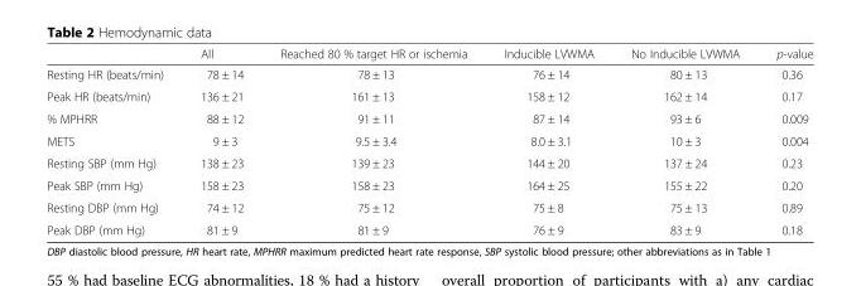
<table><thead><tr><td></td><td>All</td><td>Reached 80 % target HR or ischemia</td><td>Inducible LVWMA</td><td>No Inducible LVWMA</td><td>p-value</td></tr></thead><tbody><tr><td>Resting HR (beats/min)</td><td>78 ± 14</td><td>78 ± 13</td><td>76 ± 14</td><td>80 ± 13</td><td>0.36</td></tr><tr><td>Peak HR (beats/min)</td><td>136 ± 21</td><td>161 ± 13</td><td>158 ± 12</td><td>162 ± 14</td><td>0.17</td></tr><tr><td>% MPHRR</td><td>88 ± 12</td><td>91 ± 11</td><td>87 ± 14</td><td>93 ± 6</td><td>0.009</td></tr><tr><td>METS</td><td>9 ± 3</td><td>9.5 ± 3.4</td><td>8.0 ± 3.1</td><td>10 ± 3</td><td>0.004</td></tr><tr><td>Resting SBP (mm Hg)</td><td>138 ± 23</td><td>139 ± 23</td><td>144 ± 20</td><td>137 ± 24</td><td>0.23</td></tr><tr><td>Peak SBP (mm Hg)</td><td>158 ± 23</td><td>158 ± 23</td><td>164 ± 25</td><td>155 ± 22</td><td>0.20</td></tr><tr><td>Resting DBP (mm Hg)</td><td>74 ± 12</td><td>75 ± 12</td><td>75 ± 8</td><td>75 ± 13</td><td>0.89</td></tr><tr><td>Peak DBP (mm Hg)</td><td>81 ± 9</td><td>81 ± 9</td><td>76 ± 9</td><td>83 ± 9</td><td>0.18</td></tr></tbody></table>